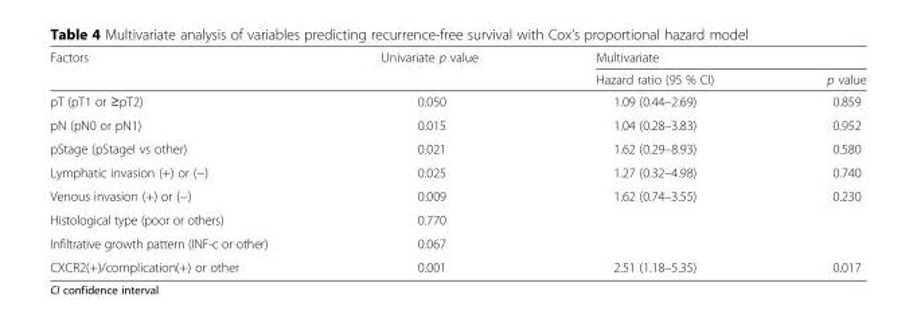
<table><thead><tr><td rowspan="2">Factors</td><td rowspan="2">Univariate p value</td><td colspan="2">Multivariate</td></tr><tr><td>Hazard ratio (95 % CI)</td><td>p value</td></tr></thead><tbody><tr><td>pT (pT1 or ≥pT2)</td><td>0.050</td><td>1.09 (0.44–2.69)</td><td>0.859</td></tr><tr><td>pN (pN0 or pN1)</td><td>0.015</td><td>1.04 (0.28–3.83)</td><td>0.952</td></tr><tr><td>pStage (pStageI vs other)</td><td>0.021</td><td>1.62 (0.29–8.93)</td><td>0.580</td></tr><tr><td>Lymphatic invasion (+) or (−)</td><td>0.025</td><td>1.27 (0.32–4.98)</td><td>0.740</td></tr><tr><td>Venous invasion (+) or (−)</td><td>0.009</td><td>1.62 (0.74–3.55)</td><td>0.230</td></tr><tr><td>Histological type (poor or others)</td><td>0.770</td><td></td><td></td></tr><tr><td>Infiltrative growth pattern (INF-c or other)</td><td>0.067</td><td></td><td></td></tr><tr><td>CXCR2(+)/complication(+) or other</td><td>0.001</td><td>2.51 (1.18–5.35)</td><td>0.017</td></tr></tbody></table>